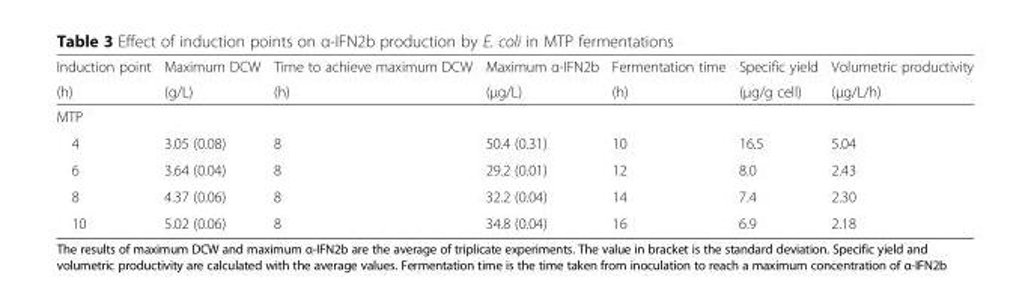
<table><thead><tr><td rowspan="2">Induction point (h)</td><td rowspan="2">Maximum DCW (g/L)</td><td rowspan="2">Time to achieve maximum DCW (h)</td><td rowspan="2">Maximum α-IFN2b (μg/L)</td><td rowspan="2">Fermentation time (h)</td><td rowspan="2">Specific yield (μg/g cell)</td><td rowspan="2">Volumetric productivity (μg/L/h)</td></tr><tr></tr></thead><tbody><tr><td colspan="7">MTP</td></tr><tr><td>4</td><td>3.05 (0.08)</td><td>8</td><td>50.4 (0.31)</td><td>10</td><td>16.5</td><td>5.04</td></tr><tr><td>6</td><td>3.64 (0.04)</td><td>8</td><td>29.2 (0.01)</td><td>12</td><td>8.0</td><td>2.43</td></tr><tr><td>8</td><td>4.37 (0.06)</td><td>8</td><td>32.2 (0.04)</td><td>14</td><td>7.4</td><td>2.30</td></tr><tr><td>10</td><td>5.02 (0.06)</td><td>8</td><td>34.8 (0.04)</td><td>16</td><td>6.9</td><td>2.18</td></tr></tbody></table>